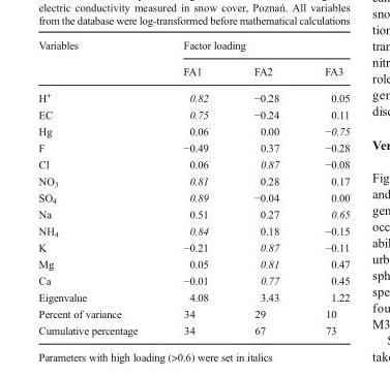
<table><thead><tr><td rowspan="2">Variables</td><td colspan="3">Factor loading</td></tr><tr><td>FA1</td><td>FA2</td><td>FA3</td></tr></thead><tbody><tr><td>H<sup>+</sup></td><td>0.82</td><td>−0.28</td><td>0.05</td></tr><tr><td>EC</td><td>0.75</td><td>−0.24</td><td>0.11</td></tr><tr><td>Hg</td><td>0.06</td><td>0.00</td><td>−0.75</td></tr><tr><td>F</td><td>−0.49</td><td>0.37</td><td>−0.28</td></tr><tr><td>Cl</td><td>0.06</td><td>0.87</td><td>−0.08</td></tr><tr><td>NO<sub>3</sub></td><td>0.81</td><td>0.28</td><td>0.17</td></tr><tr><td>SO<sub>4</sub></td><td>0.89</td><td>−0.04</td><td>0.00</td></tr><tr><td>Na</td><td>0.51</td><td>0.27</td><td>0.65</td></tr><tr><td>NH<sub>4</sub></td><td>0.84</td><td>0.18</td><td>−0.15</td></tr><tr><td>K</td><td>−0.21</td><td>0.87</td><td>−0.11</td></tr><tr><td>Mg</td><td>0.05</td><td>0.81</td><td>0.47</td></tr><tr><td>Ca</td><td>−0.01</td><td>0.77</td><td>0.45</td></tr><tr><td>Eigenvalue</td><td>4.08</td><td>3.43</td><td>1.22</td></tr><tr><td>Percent of variance</td><td>34</td><td>29</td><td>10</td></tr><tr><td>Cumulative percentage</td><td>34</td><td>67</td><td>73</td></tr></tbody></table>